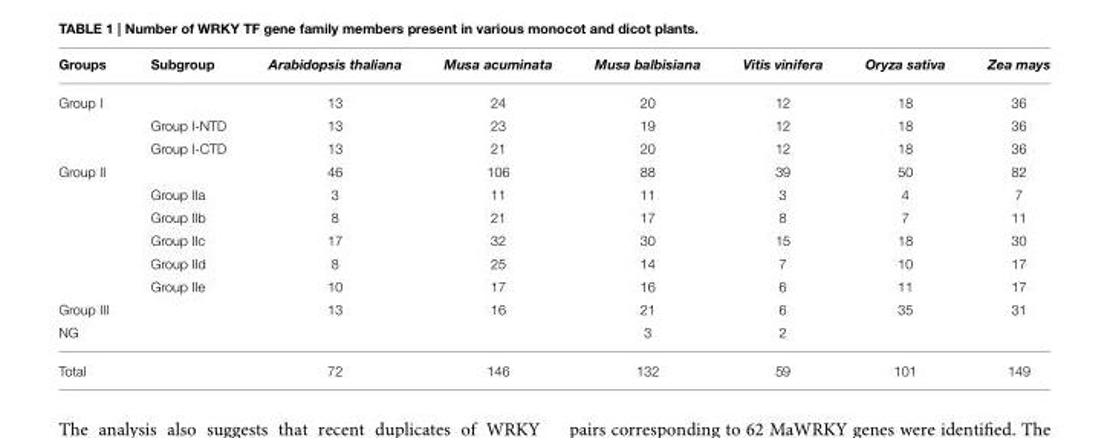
<table><thead><tr><td>Groups</td><td>Subgroup</td><td>Arabidopsis thaliana</td><td>Musa acuminata</td><td>Musa balbisiana</td><td>Vitis vinifera</td><td>Oryza sativa</td><td>Zea mays</td></tr></thead><tbody><tr><td rowspan="3">Group I</td><td></td><td>13</td><td>24</td><td>20</td><td>12</td><td>18</td><td>36</td></tr><tr><td>Group I-NTD</td><td>13</td><td>23</td><td>19</td><td>12</td><td>18</td><td>36</td></tr><tr><td>Group I-CTD</td><td>13</td><td>21</td><td>20</td><td>12</td><td>18</td><td>36</td></tr><tr><td rowspan="6">Group II</td><td></td><td>46</td><td>106</td><td>88</td><td>39</td><td>50</td><td>82</td></tr><tr><td>Group IIa</td><td>3</td><td>11</td><td>11</td><td>3</td><td>4</td><td>7</td></tr><tr><td>Group IIb</td><td>8</td><td>21</td><td>17</td><td>8</td><td>7</td><td>11</td></tr><tr><td>Group IIc</td><td>17</td><td>32</td><td>30</td><td>15</td><td>18</td><td>30</td></tr><tr><td>Group IId</td><td>8</td><td>25</td><td>14</td><td>7</td><td>10</td><td>17</td></tr><tr><td>Group IIe</td><td>10</td><td>17</td><td>16</td><td>6</td><td>11</td><td>17</td></tr><tr><td>Group III</td><td></td><td>13</td><td>16</td><td>21</td><td>6</td><td>35</td><td>31</td></tr><tr><td>NG</td><td></td><td></td><td></td><td>3</td><td>2</td><td></td><td></td></tr><tr><td>Total</td><td></td><td>72</td><td>146</td><td>132</td><td>59</td><td>101</td><td>149</td></tr></tbody></table>